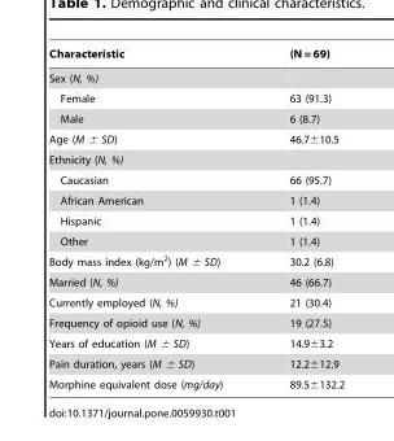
<table><thead><tr><td>Characteristic</td><td>(N = 69)</td></tr></thead><tbody><tr><td colspan="2">Sex (N, %)</td></tr><tr><td>Female</td><td>63 (91.3)</td></tr><tr><td>Male</td><td>6 (8.7)</td></tr><tr><td>Age (M ± SD)</td><td>46.7±10.5</td></tr><tr><td colspan="2">Ethnicity (N, %)</td></tr><tr><td>Caucasian</td><td>66 (95.7)</td></tr><tr><td>African American</td><td>1 (1.4)</td></tr><tr><td>Hispanic</td><td>1 (1.4)</td></tr><tr><td>Other</td><td>1 (1.4)</td></tr><tr><td>Body mass index (kg/m<sup>2</sup>) (M ± SD)</td><td>30.2 (6.8)</td></tr><tr><td>Married (N, %)</td><td>46 (66.7)</td></tr><tr><td>Currently employed (N, %)</td><td>21 (30.4)</td></tr><tr><td>Frequency of opioid use (N, %)</td><td>19 (27.5)</td></tr><tr><td>Years of education (M ± SD)</td><td>14.9±3.2</td></tr><tr><td>Pain duration, years (M ± SD)</td><td>12.2±12.9</td></tr><tr><td>Morphine equivalent dose (mg/day)</td><td>89.5±132.2</td></tr></tbody></table>